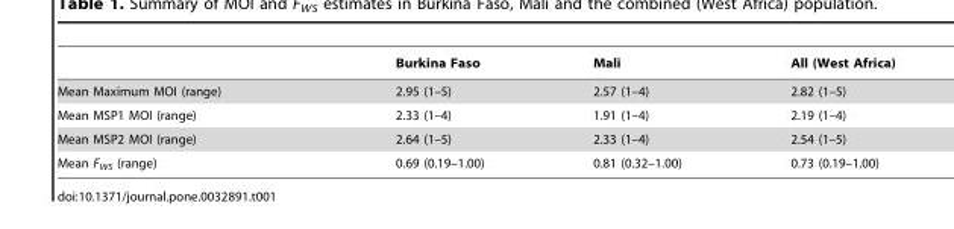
<table><thead><tr><td></td><td>Burkina Faso</td><td>Mali</td><td>All (West Africa)</td></tr></thead><tbody><tr><td>Mean Maximum MOI (range)</td><td>2.95 (1–5)</td><td>2.57 (1–4)</td><td>2.82 (1–5)</td></tr><tr><td>Mean MSP1 MOI (range)</td><td>2.33 (1–4)</td><td>1.91 (1–4)</td><td>2.19 (1–4)</td></tr><tr><td>Mean MSP2 MOI (range)</td><td>2.64 (1–5)</td><td>2.33 (1–4)</td><td>2.54 (1–5)</td></tr><tr><td>Mean F<sub>WS</sub> (range)</td><td>0.69 (0.19–1.00)</td><td>0.81 (0.32–1.00)</td><td>0.73 (0.19–1.00)</td></tr></tbody></table>